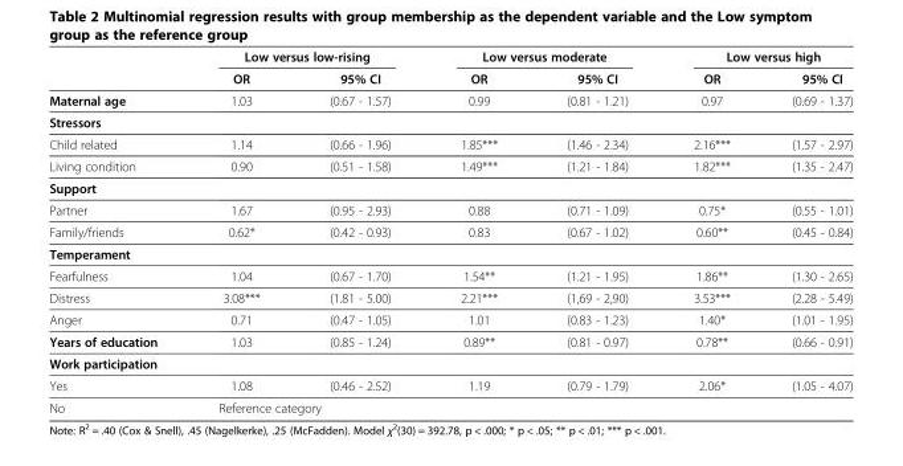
<table><thead><tr><td rowspan="2"></td><td colspan="2">Low versus low-rising</td><td colspan="2">Low versus moderate</td><td colspan="2">Low versus high</td></tr><tr><td>OR</td><td>95% CI</td><td>OR</td><td>95% CI</td><td>OR</td><td>95% CI</td></tr></thead><tbody><tr><td>Maternal age</td><td>1.03</td><td>(0.67 - 1.57)</td><td>0.99</td><td>(0.81 - 1.21)</td><td>0.97</td><td>(0.69 - 1.37)</td></tr><tr><td colspan="7">Stressors</td></tr><tr><td>Child related</td><td>1.14</td><td>(0.66 - 1.96)</td><td>1.85***</td><td>(1.46 - 2.34)</td><td>2.16***</td><td>(1.57 - 2.97)</td></tr><tr><td>Living condition</td><td>0.90</td><td>(0.51 - 1.58)</td><td>1.49***</td><td>(1.21 - 1.84)</td><td>1.82***</td><td>(1.35 - 2.47)</td></tr><tr><td colspan="7">Support</td></tr><tr><td>Partner</td><td>1.67</td><td>(0.95 - 2.93)</td><td>0.88</td><td>(0.71 - 1.09)</td><td>0.75*</td><td>(0.55 - 1.01)</td></tr><tr><td>Family/friends</td><td>0.62*</td><td>(0.42 - 0.93)</td><td>0.83</td><td>(0.67 - 1.02)</td><td>0.60**</td><td>(0.45 - 0.84)</td></tr><tr><td colspan="7">Temperament</td></tr><tr><td>Fearfulness</td><td>1.04</td><td>(0.67 - 1.70)</td><td>1.54**</td><td>(1.21 - 1.95)</td><td>1.86**</td><td>(1.30 - 2.65)</td></tr><tr><td>Distress</td><td>3.08***</td><td>(1.81 - 5.00)</td><td>2.21***</td><td>(1,69 - 2,90)</td><td>3.53***</td><td>(2.28 - 5.49)</td></tr><tr><td>Anger</td><td>0.71</td><td>(0.47 - 1.05)</td><td>1.01</td><td>(0.83 - 1.23)</td><td>1.40*</td><td>(1.01 - 1.95)</td></tr><tr><td>Years of education</td><td>1.03</td><td>(0.85 - 1.24)</td><td>0.89**</td><td>(0.81 - 0.97)</td><td>0.78**</td><td>(0.66 - 0.91)</td></tr><tr><td colspan="7">Work participation</td></tr><tr><td>Yes</td><td>1.08</td><td>(0.46 - 2.52)</td><td>1.19</td><td>(0.79 - 1.79)</td><td>2.06*</td><td>(1.05 - 4.07)</td></tr><tr><td>No</td><td>Reference category</td><td></td><td></td><td></td><td></td><td></td></tr></tbody></table>